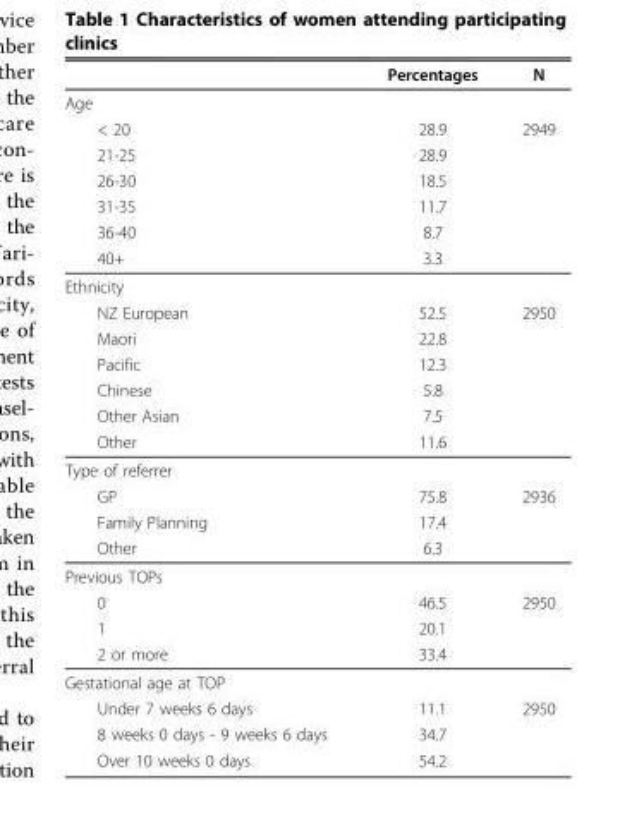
<table><thead><tr><td></td><td>Percentages</td><td>N</td></tr></thead><tbody><tr><td colspan="3">Age</td></tr><tr><td>&lt; 20</td><td>28.9</td><td>2949</td></tr><tr><td>21-25</td><td>28.9</td><td></td></tr><tr><td>26-30</td><td>18.5</td><td></td></tr><tr><td>31-35</td><td>11.7</td><td></td></tr><tr><td>36-40</td><td>8.7</td><td></td></tr><tr><td>40+</td><td>3.3</td><td></td></tr><tr><td colspan="3">Ethnicity</td></tr><tr><td>NZ European</td><td>52.5</td><td>2950</td></tr><tr><td>Maori</td><td>22.8</td><td></td></tr><tr><td>Pacific</td><td>12.3</td><td></td></tr><tr><td>Chinese</td><td>5.8</td><td></td></tr><tr><td>Other Asian</td><td>7.5</td><td></td></tr><tr><td>Other</td><td>11.6</td><td></td></tr><tr><td colspan="3">Type of referrer</td></tr><tr><td>GP</td><td>75.8</td><td>2936</td></tr><tr><td>Family Planning</td><td>17.4</td><td></td></tr><tr><td>Other</td><td>6.3</td><td></td></tr><tr><td colspan="3">Previous TOPs</td></tr><tr><td>0</td><td>46.5</td><td>2950</td></tr><tr><td>1</td><td>20.1</td><td></td></tr><tr><td>2 or more</td><td>33.4</td><td></td></tr><tr><td colspan="3">Gestational age at TOP</td></tr><tr><td>Under 7 weeks 6 days</td><td>11.1</td><td>2950</td></tr><tr><td>8 weeks 0 days - 9 weeks 6 days</td><td>34.7</td><td></td></tr><tr><td>Over 10 weeks 0 days</td><td>54.2</td><td></td></tr></tbody></table>